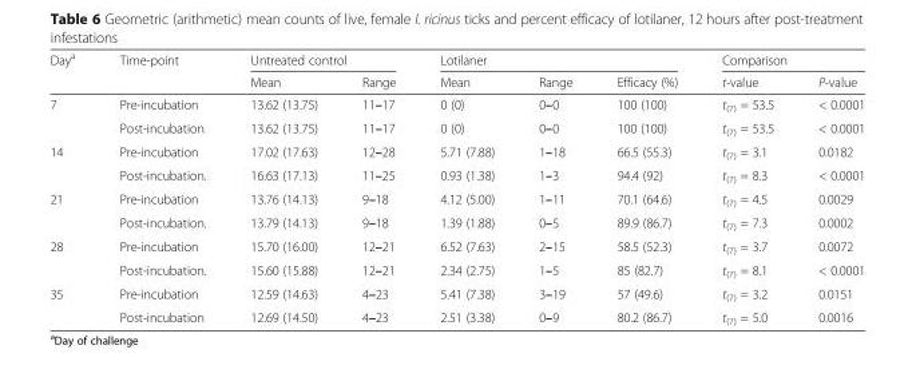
<table><thead><tr><td rowspan="2">Day<sup>a</sup></td><td rowspan="2">Time-point</td><td colspan="2">Untreated control</td><td colspan="3">Lotilaner</td><td colspan="2">Comparison</td></tr><tr><td>Mean</td><td>Range</td><td>Mean</td><td>Range</td><td>Efficacy (%)</td><td>t-value</td><td>P-value</td></tr></thead><tbody><tr><td rowspan="2">7</td><td>Pre-incubation</td><td>13.62 (13.75)</td><td>11–17</td><td>0 (0)</td><td>0–0</td><td>100 (100)</td><td>t<sub>(7)</sub> = 53.5</td><td>&lt; 0.0001</td></tr><tr><td>Post-incubation</td><td>13.62 (13.75)</td><td>11–17</td><td>0 (0)</td><td>0–0</td><td>100 (100)</td><td>t<sub>(7)</sub> = 53.5</td><td>&lt; 0.0001</td></tr><tr><td rowspan="2">14</td><td>Pre-incubation</td><td>17.02 (17.63)</td><td>12–28</td><td>5.71 (7.88)</td><td>1–18</td><td>66.5 (55.3)</td><td>t<sub>(7)</sub> = 3.1</td><td>0.0182</td></tr><tr><td>Post-incubation.</td><td>16.63 (17.13)</td><td>11–25</td><td>0.93 (1.38)</td><td>1–3</td><td>94.4 (92)</td><td>t<sub>(7)</sub> = 8.3</td><td>&lt; 0.0001</td></tr><tr><td rowspan="2">21</td><td>Pre-incubation</td><td>13.76 (14.13)</td><td>9–18</td><td>4.12 (5.00)</td><td>1–11</td><td>70.1 (64.6)</td><td>t<sub>(7)</sub> = 4.5</td><td>0.0029</td></tr><tr><td>Post-incubation.</td><td>13.79 (14.13)</td><td>9–18</td><td>1.39 (1.88)</td><td>0–5</td><td>89.9 (86.7)</td><td>t<sub>(7)</sub> = 7.3</td><td>0.0002</td></tr><tr><td rowspan="2">28</td><td>Pre-incubation</td><td>15.70 (16.00)</td><td>12–21</td><td>6.52 (7.63)</td><td>2–15</td><td>58.5 (52.3)</td><td>t<sub>(7)</sub> = 3.7</td><td>0.0072</td></tr><tr><td>Post-incubation.</td><td>15.60 (15.88)</td><td>12–21</td><td>2.34 (2.75)</td><td>1–5</td><td>85 (82.7)</td><td>t<sub>(7)</sub> = 8.1</td><td>&lt; 0.0001</td></tr><tr><td rowspan="2">35</td><td>Pre-incubation</td><td>12.59 (14.63)</td><td>4–23</td><td>5.41 (7.38)</td><td>3–19</td><td>57 (49.6)</td><td>t<sub>(7)</sub> = 3.2</td><td>0.0151</td></tr><tr><td>Post-incubation</td><td>12.69 (14.50)</td><td>4–23</td><td>2.51 (3.38)</td><td>0–9</td><td>80.2 (86.7)</td><td>t<sub>(7)</sub> = 5.0</td><td>0.0016</td></tr></tbody></table>